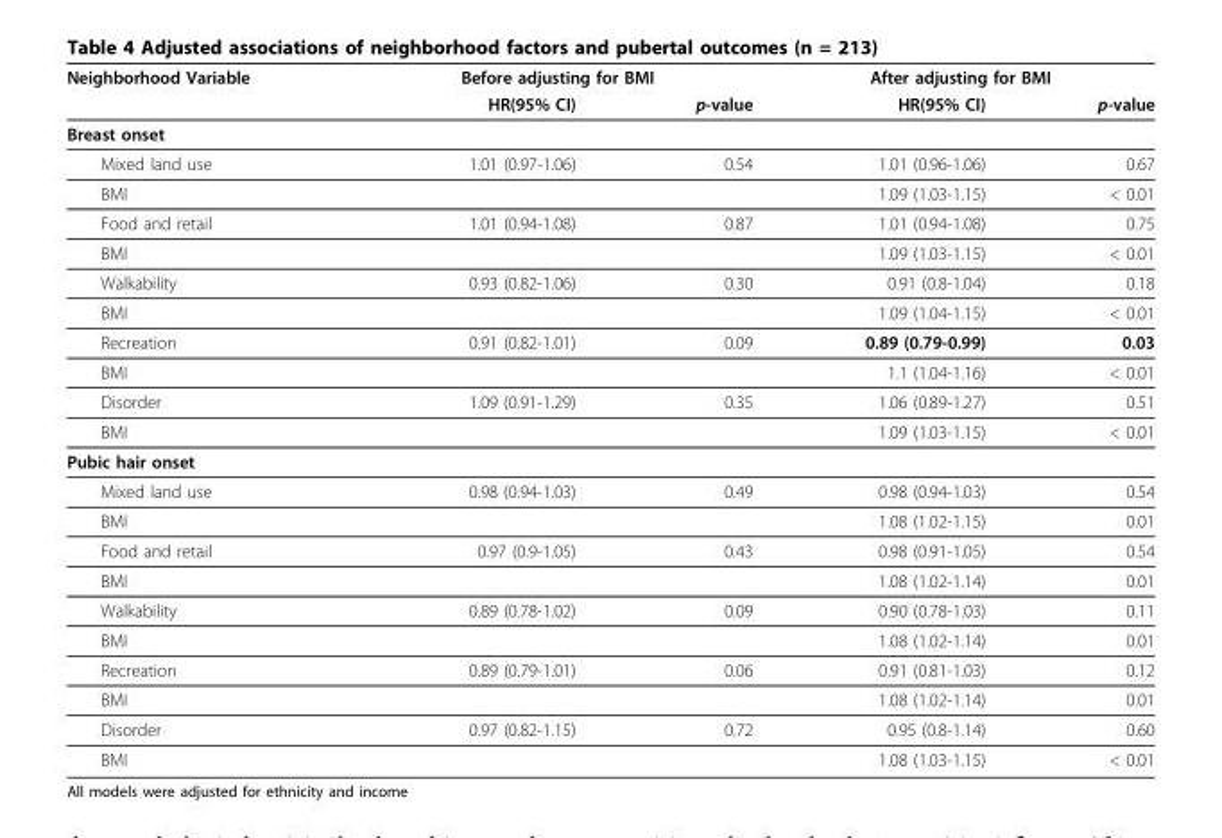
<table><thead><tr><td rowspan="2">Neighborhood Variable</td><td colspan="2">Before adjusting for BMI</td><td colspan="2">After adjusting for BMI</td></tr><tr><td>HR(95% CI)</td><td>p-value</td><td>HR(95% CI)</td><td>p-value</td></tr></thead><tbody><tr><td colspan="5">Breast onset</td></tr><tr><td>Mixed land use</td><td>1.01 (0.97-1.06)</td><td>0.54</td><td>1.01 (0.96-1.06)</td><td>0.67</td></tr><tr><td>BMI</td><td></td><td></td><td>1.09 (1.03-1.15)</td><td>&lt; 0.01</td></tr><tr><td>Food and retail</td><td>1.01 (0.94-1.08)</td><td>0.87</td><td>1.01 (0.94-1.08)</td><td>0.75</td></tr><tr><td>BMI</td><td></td><td></td><td>1.09 (1.03-1.15)</td><td>&lt; 0.01</td></tr><tr><td>Walkability</td><td>0.93 (0.82-1.06)</td><td>0.30</td><td>0.91 (0.8-1.04)</td><td>0.18</td></tr><tr><td>BMI</td><td></td><td></td><td>1.09 (1.04-1.15)</td><td>&lt; 0.01</td></tr><tr><td>Recreation</td><td>0.91 (0.82-1.01)</td><td>0.09</td><td>0.89 (0.79-0.99)</td><td>0.03</td></tr><tr><td>BMI</td><td></td><td></td><td>1.1 (1.04-1.16)</td><td>&lt; 0.01</td></tr><tr><td>Disorder</td><td>1.09 (0.91-1.29)</td><td>0.35</td><td>1.06 (0.89-1.27)</td><td>0.51</td></tr><tr><td>BMI</td><td></td><td></td><td>1.09 (1.03-1.15)</td><td>&lt; 0.01</td></tr><tr><td colspan="5">Pubic hair onset</td></tr><tr><td>Mixed land use</td><td>0.98 (0.94-1.03)</td><td>0.49</td><td>0.98 (0.94-1.03)</td><td>0.54</td></tr><tr><td>BMI</td><td></td><td></td><td>1.08 (1.02-1.15)</td><td>0.01</td></tr><tr><td>Food and retail</td><td>0.97 (0.9-1.05)</td><td>0.43</td><td>0.98 (0.91-1.05)</td><td>0.54</td></tr><tr><td>BMI</td><td></td><td></td><td>1.08 (1.02-1.14)</td><td>0.01</td></tr><tr><td>Walkability</td><td>0.89 (0.78-1.02)</td><td>0.09</td><td>0.90 (0.78-1.03)</td><td>0.11</td></tr><tr><td>BMI</td><td></td><td></td><td>1.08 (1.02-1.14)</td><td>0.01</td></tr><tr><td>Recreation</td><td>0.89 (0.79-1.01)</td><td>0.06</td><td>0.91 (0.81-1.03)</td><td>0.12</td></tr><tr><td>BMI</td><td></td><td></td><td>1.08 (1.02-1.14)</td><td>0.01</td></tr><tr><td>Disorder</td><td>0.97 (0.82-1.15)</td><td>0.72</td><td>0.95 (0.8-1.14)</td><td>0.60</td></tr><tr><td>BMI</td><td></td><td></td><td>1.08 (1.03-1.15)</td><td>&lt; 0.01</td></tr></tbody></table>